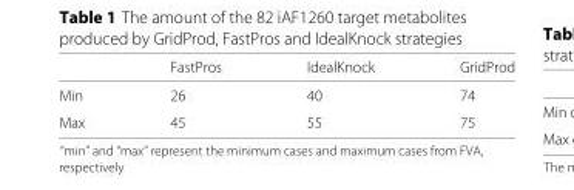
<table><thead><tr><td></td><td>FastPros</td><td>IdealKnock</td><td>GridProd</td></tr></thead><tbody><tr><td>Min</td><td>26</td><td>40</td><td>74</td></tr><tr><td>Max</td><td>45</td><td>55</td><td>75</td></tr></tbody></table>